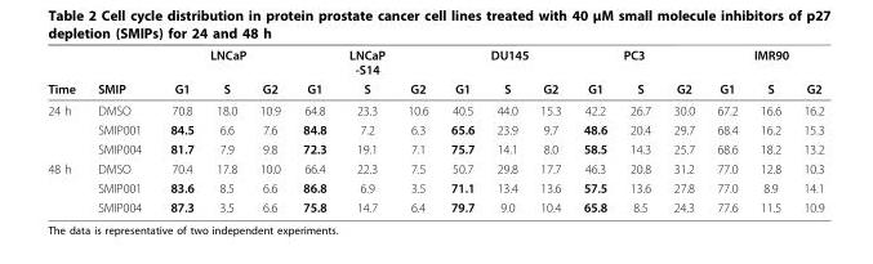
<table><thead><tr><td rowspan="2">Time</td><td rowspan="2">SMIP</td><td rowspan="2">G1</td><td colspan="2">LNCaP</td><td rowspan="2">G1</td><td rowspan="2">LNCaP -S14 S</td><td rowspan="2">G2</td><td rowspan="2">G1</td><td colspan="2">DU145</td><td rowspan="2">G1</td><td rowspan="2">PC3 S</td><td rowspan="2">G2</td><td rowspan="2">G1</td><td colspan="2">IMR90</td></tr><tr><td>S</td><td>G2</td><td>S</td><td>G2</td><td>S</td><td>G2</td></tr></thead><tbody><tr><td rowspan="3">24 h</td><td>DMSO</td><td>70.8</td><td>18.0</td><td>10.9</td><td>64.8</td><td>23.3</td><td>10.6</td><td>40.5</td><td>44.0</td><td>15.3</td><td>42.2</td><td>26.7</td><td>30.0</td><td>67.2</td><td>16.6</td><td>16.2</td></tr><tr><td>SMIP001</td><td>84.5</td><td>6.6</td><td>7.6</td><td>84.8</td><td>7.2</td><td>6.3</td><td>65.6</td><td>23.9</td><td>9.7</td><td>48.6</td><td>20.4</td><td>29.7</td><td>68.4</td><td>16.2</td><td>15.3</td></tr><tr><td>SMIP004</td><td>81.7</td><td>7.9</td><td>9.8</td><td>72.3</td><td>19.1</td><td>7.1</td><td>75.7</td><td>14.1</td><td>8.0</td><td>58.5</td><td>14.3</td><td>25.7</td><td>68.6</td><td>18.2</td><td>13.2</td></tr><tr><td rowspan="3">48 h</td><td>DMSO</td><td>70.4</td><td>17.8</td><td>10.0</td><td>66.4</td><td>22.3</td><td>7.5</td><td>50.7</td><td>29.8</td><td>17.7</td><td>46.3</td><td>20.8</td><td>31.2</td><td>77.0</td><td>12.8</td><td>10.3</td></tr><tr><td>SMIP001</td><td>83.6</td><td>8.5</td><td>6.6</td><td>86.8</td><td>6.9</td><td>3.5</td><td>71.1</td><td>13.4</td><td>13.6</td><td>57.5</td><td>13.6</td><td>27.8</td><td>77.0</td><td>8.9</td><td>14.1</td></tr><tr><td>SMIP004</td><td>87.3</td><td>3.5</td><td>6.6</td><td>75.8</td><td>14.7</td><td>6.4</td><td>79.7</td><td>9.0</td><td>10.4</td><td>65.8</td><td>8.5</td><td>24.3</td><td>77.6</td><td>11.5</td><td>10.9</td></tr></tbody></table>